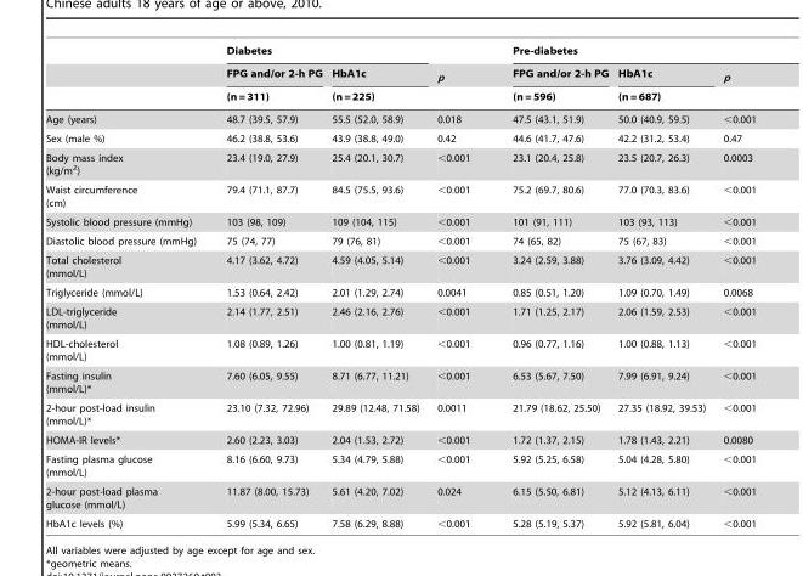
<table><thead><tr><td rowspan="3"></td><td colspan="2">Diabetes</td><td rowspan="3">p</td><td colspan="3">Pre-diabetes</td></tr><tr><td rowspan="2">FPG and/or 2-h PG (n = 311)</td><td rowspan="2">HbA1c (n = 225)</td><td rowspan="2">FPG and/or 2-h PG (n = 596)</td><td rowspan="2">HbA1c (n = 687)</td><td rowspan="2">p</td></tr><tr></tr></thead><tbody><tr><td>Age (years)</td><td>48.7 (39.5, 57.9)</td><td>55.5 (52.0, 58.9)</td><td>0.018</td><td>47.5 (43.1, 51.9)</td><td>50.0 (40.9, 59.5)</td><td>&lt;0.001</td></tr><tr><td>Sex (male %)</td><td>46.2 (38.8, 53.6)</td><td>43.9 (38.8, 49.0)</td><td>0.42</td><td>44.6 (41.7, 47.6)</td><td>42.2 (31.2, 53.4)</td><td>0.47</td></tr><tr><td>Body mass index (kg/m<sup>2</sup>)</td><td>23.4 (19.0, 27.9)</td><td>25.4 (20.1, 30.7)</td><td>&lt;0.001</td><td>23.1 (20.4, 25.8)</td><td>23.5 (20.7, 26.3)</td><td>0.0003</td></tr><tr><td>Waist circumference (cm)</td><td>79.4 (71.1, 87.7)</td><td>84.5 (75.5, 93.6)</td><td>&lt;0.001</td><td>75.2 (69.7, 80.6)</td><td>77.0 (70.3, 83.6)</td><td>&lt;0.001</td></tr><tr><td>Systolic blood pressure (mmHg)</td><td>103 (98, 109)</td><td>109 (104, 115)</td><td>&lt;0.001</td><td>101 (91, 111)</td><td>103 (93, 113)</td><td>&lt;0.001</td></tr><tr><td>Diastolic blood pressure (mmHg)</td><td>75 (74, 77)</td><td>79 (76, 81)</td><td>&lt;0.001</td><td>74 (65, 82)</td><td>75 (67, 83)</td><td>&lt;0.001</td></tr><tr><td>Total cholesterol (mmol/L)</td><td>4.17 (3.62, 4.72)</td><td>4.59 (4.05, 5.14)</td><td>&lt;0.001</td><td>3.24 (2.59, 3.88)</td><td>3.76 (3.09, 4.42)</td><td>&lt;0.001</td></tr><tr><td>Triglyceride (mmol/L)</td><td>1.53 (0.64, 2.42)</td><td>2.01 (1.29, 2.74)</td><td>0.0041</td><td>0.85 (0.51, 1.20)</td><td>1.09 (0.70, 1.49)</td><td>0.0068</td></tr><tr><td>LDL-triglyceride (mmol/L)</td><td>2.14 (1.77, 2.51)</td><td>2.46 (2.16, 2.76)</td><td>&lt;0.001</td><td>1.71 (1.25, 2.17)</td><td>2.06 (1.59, 2.53)</td><td>&lt;0.001</td></tr><tr><td>HDL-cholesterol (mmol/L)</td><td>1.08 (0.89, 1.26)</td><td>1.00 (0.81, 1.19)</td><td>&lt;0.001</td><td>0.96 (0.77, 1.16)</td><td>1.00 (0.88, 1.13)</td><td>&lt;0.001</td></tr><tr><td>Fasting insulin (mmol/L)*</td><td>7.60 (6.05, 9.55)</td><td>8.71 (6.77, 11.21)</td><td>&lt;0.001</td><td>6.53 (5.67, 7.50)</td><td>7.99 (6.91, 9.24)</td><td>&lt;0.001</td></tr><tr><td>2-hour post-load insulin (mmol/L)*</td><td>23.10 (7.32, 72.96)</td><td>29.89 (12.48, 71.58)</td><td>0.0011</td><td>21.79 (18.62, 25.50)</td><td>27.35 (18.92, 39.53)</td><td>&lt;0.001</td></tr><tr><td>HOMA-IR levels*</td><td>2.60 (2.23, 3.03)</td><td>2.04 (1.53, 2.72)</td><td>&lt;0.001</td><td>1.72 (1.37, 2.15)</td><td>1.78 (1.43, 2.21)</td><td>0.0080</td></tr><tr><td>Fasting plasma glucose (mmol/L)</td><td>8.16 (6.60, 9.73)</td><td>5.34 (4.79, 5.88)</td><td>&lt;0.001</td><td>5.92 (5.25, 6.58)</td><td>5.04 (4.28, 5.80)</td><td>&lt;0.001</td></tr><tr><td>2-hour post-load plasma glucose (mmol/L)</td><td>11.87 (8.00, 15.73)</td><td>5.61 (4.20, 7.02)</td><td>0.024</td><td>6.15 (5.50, 6.81)</td><td>5.12 (4.13, 6.11)</td><td>&lt;0.001</td></tr><tr><td>HbA1c levels (%)</td><td>5.99 (5.34, 6.65)</td><td>7.58 (6.29, 8.88)</td><td>&lt;0.001</td><td>5.28 (5.19, 5.37)</td><td>5.92 (5.81, 6.04)</td><td>&lt;0.001</td></tr></tbody></table>